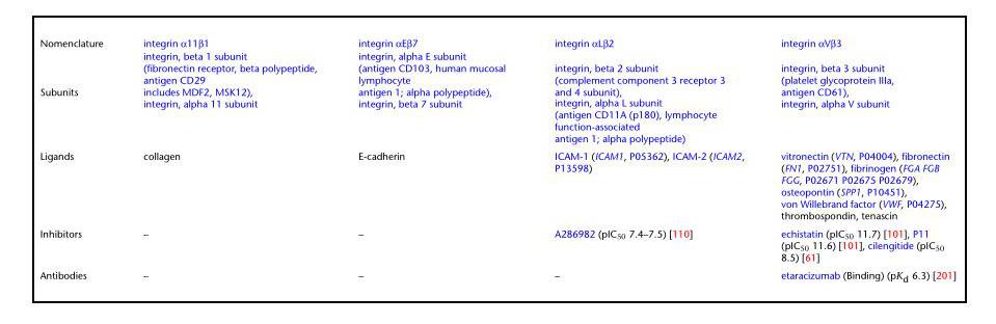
<table><tbody><tr><td>Nomenclature</td><td>integrin α11β1</td><td>integrin αEβ7</td><td>integrin αLβ2</td><td>integrin αVβ3</td></tr><tr><td>Subunits</td><td>integrin, beta 1 subunit (fibronectin receptor, beta polypeptide, antigen CD29 includes MDF2, MSK12), integrin, alpha 11 subunit</td><td>integrin, alpha E subunit (antigen CD103, human mucosal lymphocyte antigen 1; alpha polypeptide), integrin, beta 7 subunit</td><td>integrin, beta 2 subunit (complement component 3 receptor 3 and 4 subunit), integrin, alpha L subunit (antigen CD11A (p180), lymphocyte function-associated antigen 1; alpha polypeptide)</td><td>integrin, beta 3 subunit (platelet glycoprotein IIIa, antigen CD61), integrin, alpha V subunit</td></tr><tr><td>Ligands</td><td>collagen</td><td>E-cadherin</td><td>ICAM-1 (ICAM1, P05362), ICAM-2 (ICAM2, P13598)</td><td>vitronectin (VTN, P04004), fibronectin (FN1, P02751), fibrinogen (FGA FGB FGG, P02671 P02675 P02679), osteopontin (SPP1, P10451), von Willebrand factor (VWF, P04275), thrombospondin, tenascin</td></tr><tr><td>Inhibitors</td><td>–</td><td>–</td><td>A286982 (pIC<sub>50</sub> 7.4–7.5) [110]</td><td>echistatin (pIC<sub>50</sub> 11.7) [101], P11 (pIC<sub>50</sub> 11.6) [101], cilengitide (pIC<sub>50</sub> 8.5) [61]</td></tr><tr><td>Antibodies</td><td>–</td><td>–</td><td>–</td><td>etaracizumab (Binding) (pKd 6.3) [201]</td></tr></tbody></table>